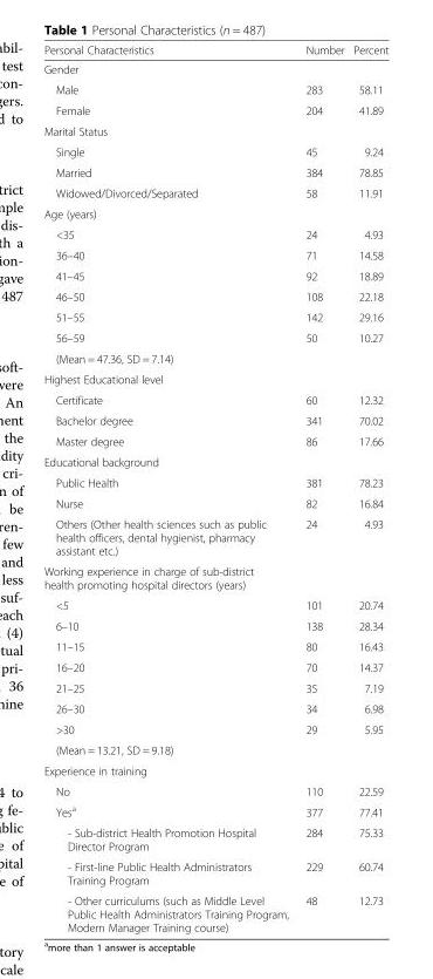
<table><thead><tr><td>Personal Characteristics</td><td>Number</td><td>Percent</td></tr></thead><tbody><tr><td colspan="3">Gender</td></tr><tr><td>Male</td><td>283</td><td>58.11</td></tr><tr><td>Female</td><td>204</td><td>41.89</td></tr><tr><td colspan="3">Marital Status</td></tr><tr><td>Single</td><td>45</td><td>9.24</td></tr><tr><td>Married</td><td>384</td><td>78.85</td></tr><tr><td>Widowed/Divorced/Separated</td><td>58</td><td>11.91</td></tr><tr><td colspan="3">Age (years)</td></tr><tr><td>&lt;35</td><td>24</td><td>4.93</td></tr><tr><td>36–40</td><td>71</td><td>14.58</td></tr><tr><td>41–45</td><td>92</td><td>18.89</td></tr><tr><td>46–50</td><td>108</td><td>22.18</td></tr><tr><td>51–55</td><td>142</td><td>29.16</td></tr><tr><td>56–59</td><td>50</td><td>10.27</td></tr><tr><td colspan="3">(Mean = 47.36, SD = 7.14)</td></tr><tr><td colspan="3">Highest Educational level</td></tr><tr><td>Certificate</td><td>60</td><td>12.32</td></tr><tr><td>Bachelor degree</td><td>341</td><td>70.02</td></tr><tr><td>Master degree</td><td>86</td><td>17.66</td></tr><tr><td colspan="3">Educational background</td></tr><tr><td>Public Health</td><td>381</td><td>78.23</td></tr><tr><td>Nurse</td><td>82</td><td>16.84</td></tr><tr><td>Others (Other health sciences such as public health officers, dental hygienist, pharmacy assistant etc.)</td><td>24</td><td>4.93</td></tr><tr><td colspan="3">Working experience in charge of sub-district health promoting hospital directors (years)</td></tr><tr><td>&lt;5</td><td>101</td><td>20.74</td></tr><tr><td>6–10</td><td>138</td><td>28.34</td></tr><tr><td>11–15</td><td>80</td><td>16.43</td></tr><tr><td>16–20</td><td>70</td><td>14.37</td></tr><tr><td>21–25</td><td>35</td><td>7.19</td></tr><tr><td>26–30</td><td>34</td><td>6.98</td></tr><tr><td>&gt;30</td><td>29</td><td>5.95</td></tr><tr><td colspan="3">(Mean = 13.21, SD = 9.18)</td></tr><tr><td colspan="3">Experience in training</td></tr><tr><td>No</td><td>110</td><td>22.59</td></tr><tr><td>Yes<sup>a</sup></td><td>377</td><td>77.41</td></tr><tr><td>- Sub-district Health Promotion Hospital Director Program</td><td>284</td><td>75.33</td></tr><tr><td>- First-line Public Health Administrators Training Program</td><td>229</td><td>60.74</td></tr><tr><td>- Other curriculums (such as Middle Level Public Health Administrators Training Program, Modern Manager Training course)</td><td>48</td><td>12.73</td></tr></tbody></table>